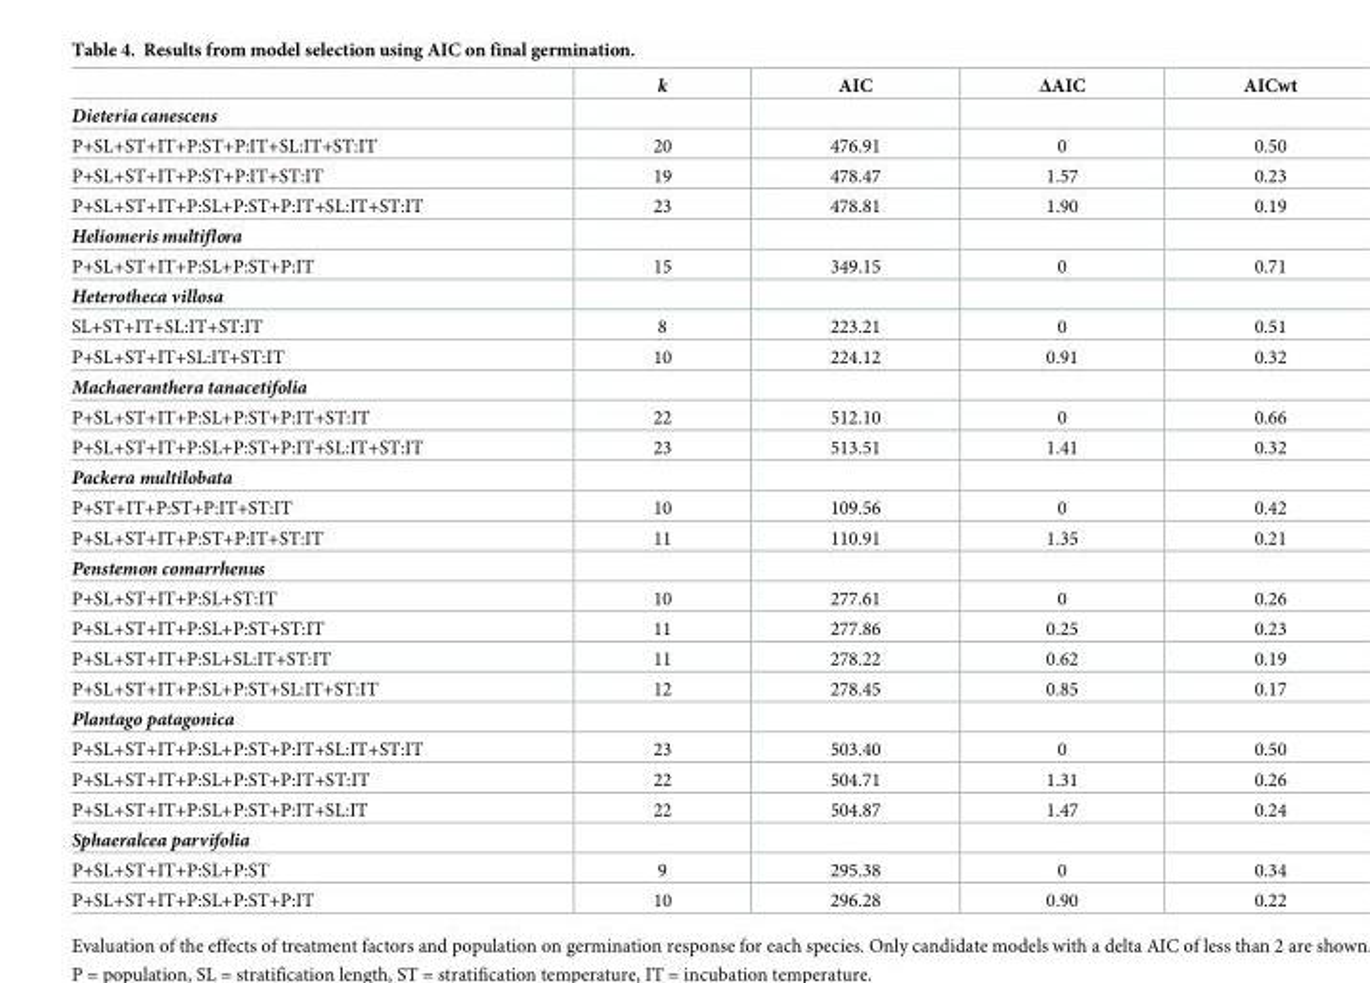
<table><thead><tr><td></td><td>k</td><td>AIC</td><td>ΔAIC</td><td>AICwt</td></tr></thead><tbody><tr><td colspan="5">Dieteria canescens</td></tr><tr><td>P+SL+ST+IT+P:ST+P:IT+SL:IT+ST:IT</td><td>20</td><td>476.91</td><td>0</td><td>0.50</td></tr><tr><td>P+SL+ST+IT+P:ST+P:IT+ST:IT</td><td>19</td><td>478.47</td><td>1.57</td><td>0.23</td></tr><tr><td>P+SL+ST+IT+P:SL+P:ST+P:IT+SL:IT+ST:IT</td><td>23</td><td>478.81</td><td>1.90</td><td>0.19</td></tr><tr><td colspan="5">Heliomeris multiflora</td></tr><tr><td>P+SL+ST+IT+P:SL+P:ST+P:IT</td><td>15</td><td>349.15</td><td>0</td><td>0.71</td></tr><tr><td colspan="5">Heterotheca villosa</td></tr><tr><td>SL+ST+IT+SL:IT+ST:IT</td><td>8</td><td>223.21</td><td>0</td><td>0.51</td></tr><tr><td>P+SL+ST+IT+SL:IT+ST:IT</td><td>10</td><td>224.12</td><td>0.91</td><td>0.32</td></tr><tr><td colspan="5">Machaeranthera tanacetifolia</td></tr><tr><td>P+SL+ST+IT+P:SL+P:ST+P:IT+ST:IT</td><td>22</td><td>512.10</td><td>0</td><td>0.66</td></tr><tr><td>P+SL+ST+IT+P:SL+P:ST+P:IT+SL:IT+ST:IT</td><td>23</td><td>513.51</td><td>1.41</td><td>0.32</td></tr><tr><td colspan="5">Packera multilobata</td></tr><tr><td>P+ST+IT+P:ST+P:IT+ST:IT</td><td>10</td><td>109.56</td><td>0</td><td>0.42</td></tr><tr><td>P+SL+ST+IT+P:ST+P:IT+ST:IT</td><td>11</td><td>110.91</td><td>1.35</td><td>0.21</td></tr><tr><td colspan="5">Penstemon comarrhenus</td></tr><tr><td>P+SL+ST+IT+P:SL+ST:IT</td><td>10</td><td>277.61</td><td>0</td><td>0.26</td></tr><tr><td>P+SL+ST+IT+P:SL+P:ST+ST:IT</td><td>11</td><td>277.86</td><td>0.25</td><td>0.23</td></tr><tr><td>P+SL+ST+IT+P:SL+SL:IT+ST:IT</td><td>11</td><td>278.22</td><td>0.62</td><td>0.19</td></tr><tr><td>P+SL+ST+IT+P:SL+P:ST+SL:IT+ST:IT</td><td>12</td><td>278.45</td><td>0.85</td><td>0.17</td></tr><tr><td colspan="5">Plantago patagonica</td></tr><tr><td>P+SL+ST+IT+P:SL+P:ST+P:IT+SL:IT+ST:IT</td><td>23</td><td>503.40</td><td>0</td><td>0.50</td></tr><tr><td>P+SL+ST+IT+P:SL+P:ST+P:IT+ST:IT</td><td>22</td><td>504.71</td><td>1.31</td><td>0.26</td></tr><tr><td>P+SL+ST+IT+P:SL+P:ST+P:IT+SL:IT</td><td>22</td><td>504.87</td><td>1.47</td><td>0.24</td></tr><tr><td colspan="5">Sphaeralcea parvifolia</td></tr><tr><td>P+SL+ST+IT+P:SL+P:ST</td><td>9</td><td>295.38</td><td>0</td><td>0.34</td></tr><tr><td>P+SL+ST+IT+P:SL+P:ST+P:IT</td><td>10</td><td>296.28</td><td>0.90</td><td>0.22</td></tr></tbody></table>